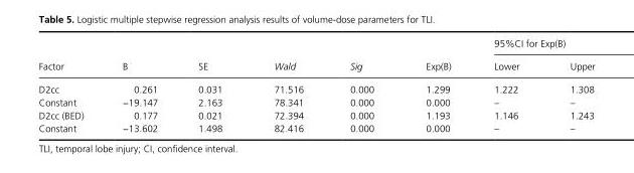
<table><thead><tr><td rowspan="2">Factor</td><td rowspan="2">B</td><td rowspan="2">SE</td><td rowspan="2">Wald</td><td rowspan="2">Sig</td><td rowspan="2">Exp(B)</td><td colspan="2">95%CI for Exp(B)</td></tr><tr><td>Lower</td><td>Upper</td></tr></thead><tbody><tr><td>D2cc</td><td>0.261</td><td>0.031</td><td>71.516</td><td>0.000</td><td>1.299</td><td>1.222</td><td>1.308</td></tr><tr><td>Constant</td><td>−19.147</td><td>2.163</td><td>78.341</td><td>0.000</td><td>0.000</td><td>–</td><td>–</td></tr><tr><td>D2cc (BED)</td><td>0.177</td><td>0.021</td><td>72.394</td><td>0.000</td><td>1.193</td><td>1.146</td><td>1.243</td></tr><tr><td>Constant</td><td>−13.602</td><td>1.498</td><td>82.416</td><td>0.000</td><td>0.000</td><td>–</td><td>–</td></tr></tbody></table>